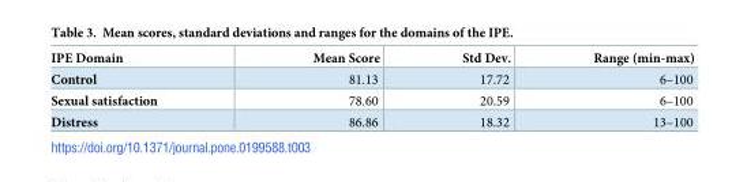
<table><thead><tr><td>IPE Domain</td><td>Mean Score</td><td>Std Dev.</td><td>Range (min-max)</td></tr></thead><tbody><tr><td>Control</td><td>81.13</td><td>17.72</td><td>6–100</td></tr><tr><td>Sexual satisfaction</td><td>78.60</td><td>20.59</td><td>6–100</td></tr><tr><td>Distress</td><td>86.86</td><td>18.32</td><td>13–100</td></tr></tbody></table>